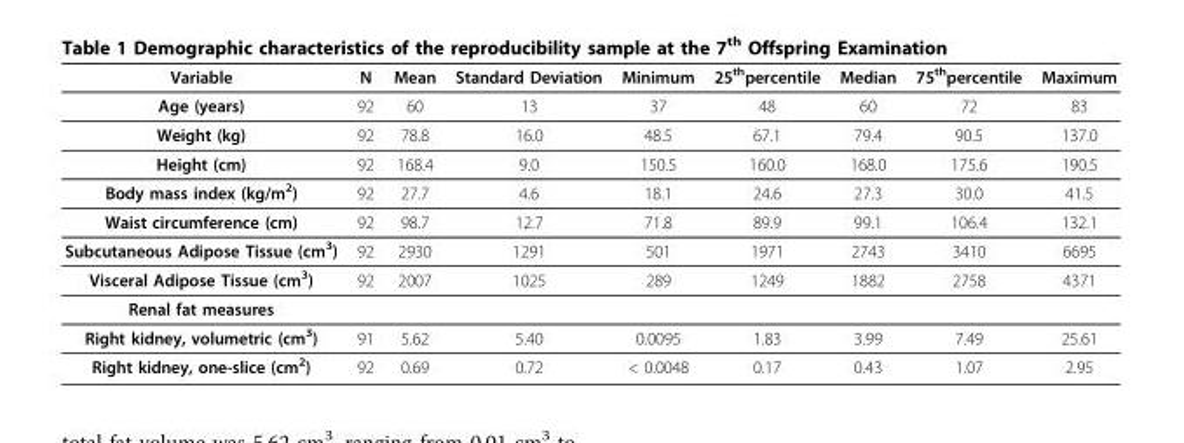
<table><thead><tr><td>Variable</td><td>N</td><td>Mean</td><td>Standard Deviation</td><td>Minimum</td><td>25<sup>th</sup>percentile</td><td>Median</td><td>75<sup>th</sup>percentile</td><td>Maximum</td></tr></thead><tbody><tr><td>Age (years)</td><td>92</td><td>60</td><td>13</td><td>37</td><td>48</td><td>60</td><td>72</td><td>83</td></tr><tr><td>Weight (kg)</td><td>92</td><td>78.8</td><td>16.0</td><td>48.5</td><td>67.1</td><td>79.4</td><td>90.5</td><td>137.0</td></tr><tr><td>Height (cm)</td><td>92</td><td>168.4</td><td>9.0</td><td>150.5</td><td>160.0</td><td>168.0</td><td>175.6</td><td>190.5</td></tr><tr><td>Body mass index (kg/m<sup>2</sup>)</td><td>92</td><td>27.7</td><td>4.6</td><td>18.1</td><td>24.6</td><td>27.3</td><td>30.0</td><td>41.5</td></tr><tr><td>Waist circumference (cm)</td><td>92</td><td>98.7</td><td>12.7</td><td>71.8</td><td>89.9</td><td>99.1</td><td>106.4</td><td>132.1</td></tr><tr><td>Subcutaneous Adipose Tissue (cm<sup>3</sup>)</td><td>92</td><td>2930</td><td>1291</td><td>501</td><td>1971</td><td>2743</td><td>3410</td><td>6695</td></tr><tr><td>Visceral Adipose Tissue (cm<sup>3</sup>)</td><td>92</td><td>2007</td><td>1025</td><td>289</td><td>1249</td><td>1882</td><td>2758</td><td>4371</td></tr><tr><td colspan="9">Renal fat measures</td></tr><tr><td>Right kidney, volumetric (cm<sup>3</sup>)</td><td>91</td><td>5.62</td><td>5.40</td><td>0.0095</td><td>1.83</td><td>3.99</td><td>7.49</td><td>25.61</td></tr><tr><td>Right kidney, one-slice (cm<sup>2</sup>)</td><td>92</td><td>0.69</td><td>0.72</td><td>&lt; 0.0048</td><td>0.17</td><td>0.43</td><td>1.07</td><td>2.95</td></tr></tbody></table>